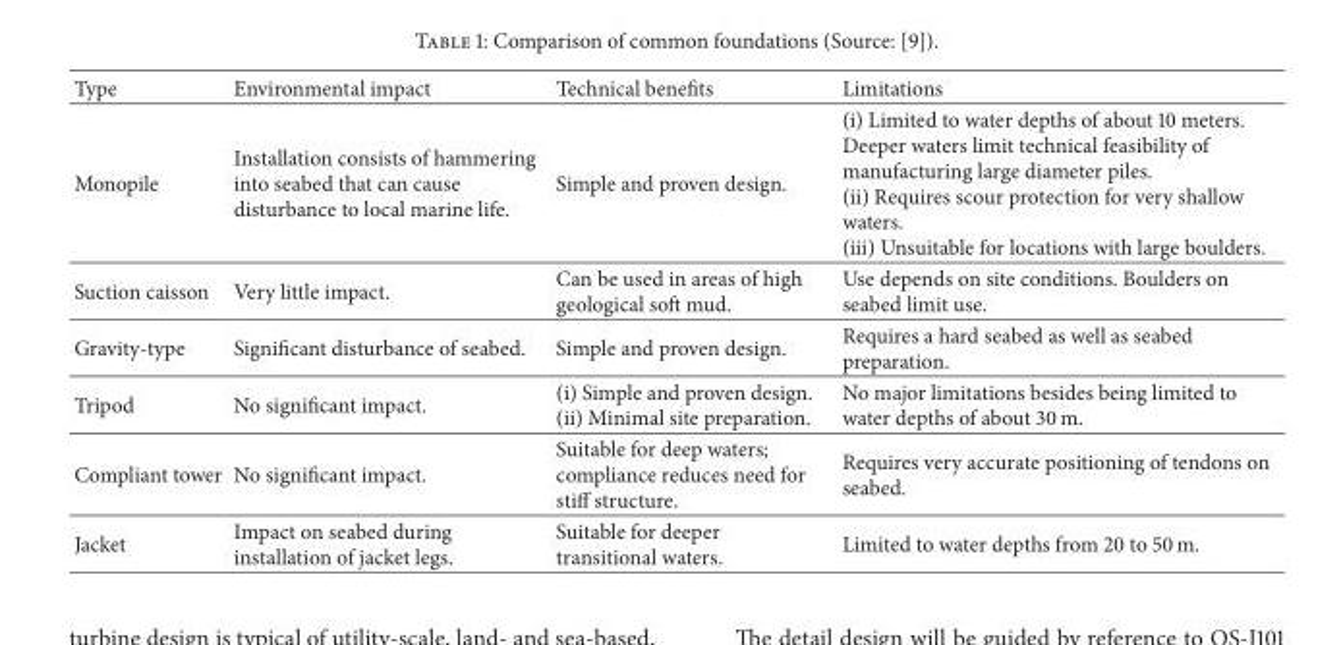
<table><thead><tr><td>Type</td><td>Environmental impact</td><td>Technical benefits</td><td>Limitations</td></tr></thead><tbody><tr><td>Monopile</td><td>Installation consists of hammering into seabed that can cause disturbance to local marine life.</td><td>Simple and proven design.</td><td>(i) Limited to water depths of about 10 meters. Deeper waters limit technical feasibility of manufacturing large diameter piles. (ii) Requires scour protection for very shallow waters. (iii) Unsuitable for locations with large boulders.</td></tr><tr><td>Suction caisson</td><td>Very little impact.</td><td>Can be used in areas of high geological soft mud.</td><td>Use depends on site conditions. Boulders on seabed limit use.</td></tr><tr><td>Gravity-type</td><td>Significant disturbance of seabed.</td><td>Simple and proven design.</td><td>Requires a hard seabed as well as seabed preparation.</td></tr><tr><td>Tripod</td><td>No significant impact.</td><td>(i) Simple and proven design. (ii) Minimal site preparation.</td><td>No major limitations besides being limited to water depths of about 30 m.</td></tr><tr><td>Compliant tower</td><td>No significant impact.</td><td>Suitable for deep waters; compliance reduces need for stiff structure.</td><td>Requires very accurate positioning of tendons on seabed.</td></tr><tr><td>Jacket</td><td>Impact on seabed during installation of jacket legs.</td><td>Suitable for deeper transitional waters.</td><td>Limited to water depths from 20 to 50 m.</td></tr></tbody></table>